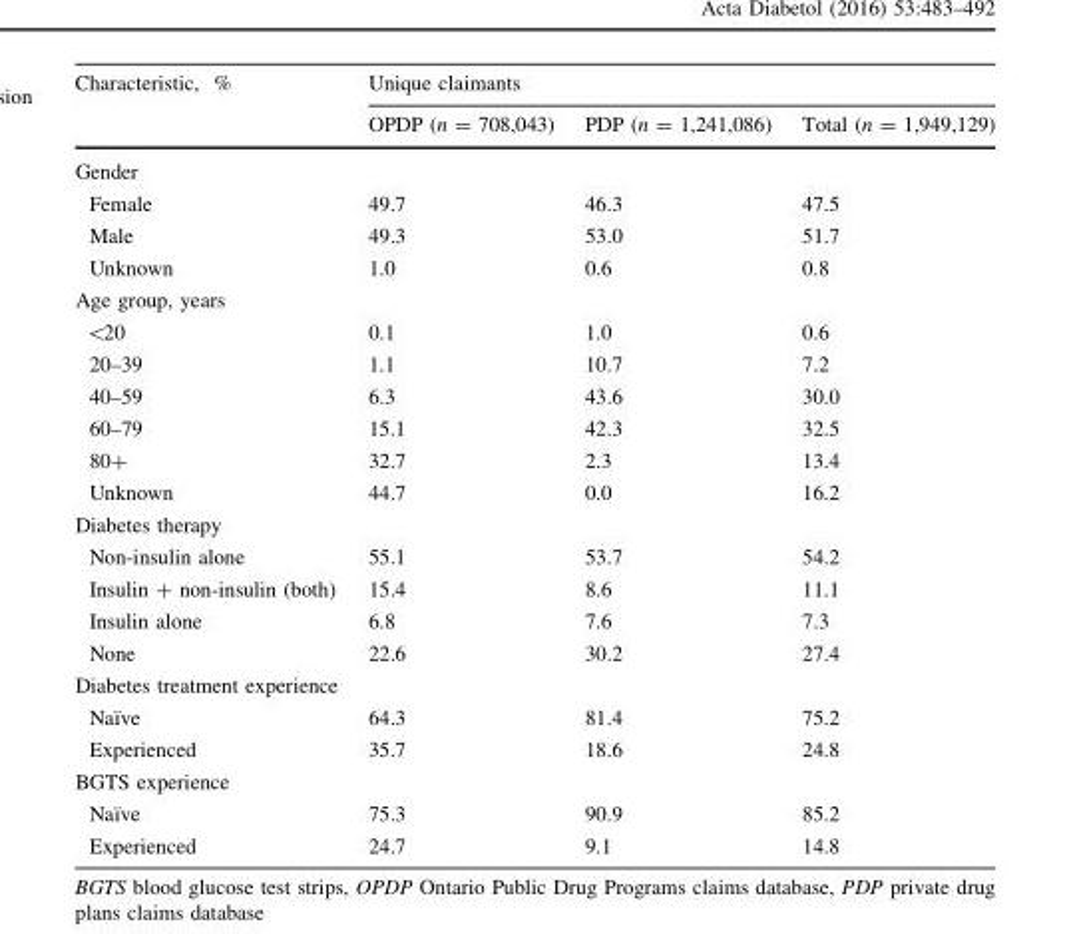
<table><thead><tr><td rowspan="2">Characteristic, %</td><td colspan="3">Unique claimants</td></tr><tr><td>OPDP (n = 708,043)</td><td>PDP (n = 1,241,086)</td><td>Total (n = 1,949,129)</td></tr></thead><tbody><tr><td colspan="4">Gender</td></tr><tr><td>Female Male Unknown</td><td>49.7 49.3 1.0</td><td>46.3 53.0 0.6</td><td>47.5 51.7 0.8</td></tr><tr><td colspan="4">Age group, years</td></tr><tr><td>&lt;20 20–39 40–59 60–79 80+ Unknown</td><td>0.1 1.1 6.3 15.1 32.7 44.7</td><td>1.0 10.7 43.6 42.3 2.3 0.0</td><td>0.6 7.2 30.0 32.5 13.4 16.2</td></tr><tr><td colspan="4">Diabetes therapy</td></tr><tr><td>Non-insulin alone Insulin + non-insulin (both) Insulin alone None</td><td>55.1 15.4 6.8 22.6</td><td>53.7 8.6 7.6 30.2</td><td>54.2 11.1 7.3 27.4</td></tr><tr><td colspan="4">Diabetes treatment experience</td></tr><tr><td>Naı¨ve Experienced</td><td>64.3 35.7</td><td>81.4 18.6</td><td>75.2 24.8</td></tr><tr><td colspan="4">BGTS experience</td></tr><tr><td>Naı¨ve Experienced</td><td>75.3 24.7</td><td>90.9 9.1</td><td>85.2 14.8</td></tr></tbody></table>